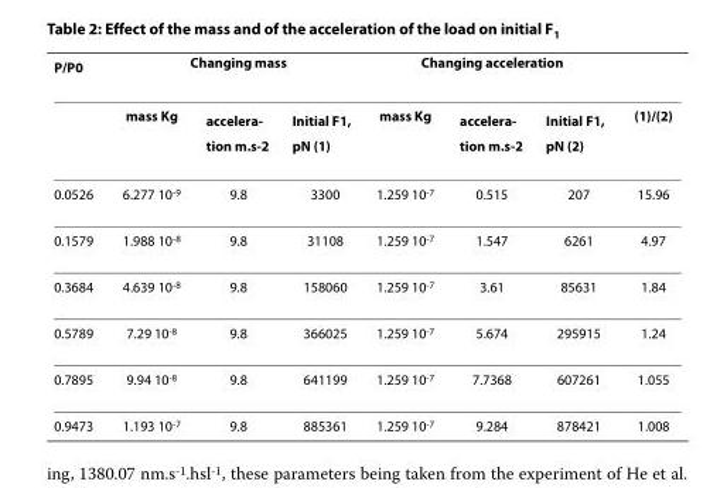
<table><thead><tr><td rowspan="2">P/P<sub>0</sub></td><td colspan="3">Changing mass</td><td colspan="3">Changing acceleration</td><td rowspan="2">(1)/(2)</td></tr><tr><td>mass Kg</td><td>accelera- tion m.s-2</td><td>Initial F<sub>1</sub>, pN (1)</td><td>mass Kg</td><td>accelera- tion m.s-2</td><td>Initial F<sub>1</sub>, pN (2)</td></tr></thead><tbody><tr><td>0.0526</td><td>6.277 10<sup>-9</sup></td><td>9.8</td><td>3300</td><td>1.259 10<sup>-7</sup></td><td>0.515</td><td>207</td><td>15.96</td></tr><tr><td>0.1579</td><td>1.988 10<sup>-8</sup></td><td>9.8</td><td>31108</td><td>1.259 10<sup>-7</sup></td><td>1.547</td><td>6261</td><td>4.97</td></tr><tr><td>0.3684</td><td>4.639 10<sup>-8</sup></td><td>9.8</td><td>158060</td><td>1.259 10<sup>-7</sup></td><td>3.61</td><td>85631</td><td>1.84</td></tr><tr><td>0.5789</td><td>7.29 10<sup>-8</sup></td><td>9.8</td><td>366025</td><td>1.259 10<sup>-7</sup></td><td>5.674</td><td>295915</td><td>1.24</td></tr><tr><td>0.7895</td><td>9.94 10<sup>-8</sup></td><td>9.8</td><td>641199</td><td>1.259 10<sup>-7</sup></td><td>7.7368</td><td>607261</td><td>1.055</td></tr><tr><td>0.9473</td><td>1.193 10<sup>-7</sup></td><td>9.8</td><td>885361</td><td>1.259 10<sup>-7</sup></td><td>9.284</td><td>878421</td><td>1.008</td></tr></tbody></table>